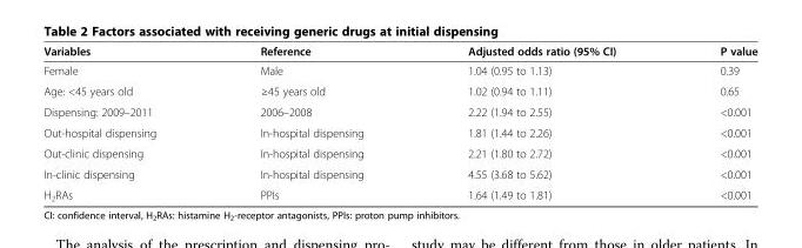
<table><thead><tr><td>Variables</td><td>Reference</td><td>Adjusted odds ratio (95% CI)</td><td>P value</td></tr></thead><tbody><tr><td>Female</td><td>Male</td><td>1.04 (0.95 to 1.13)</td><td>0.39</td></tr><tr><td>Age: &lt;45 years old</td><td>≥45 years old</td><td>1.02 (0.94 to 1.11)</td><td>0.65</td></tr><tr><td>Dispensing: 2009–2011</td><td>2006–2008</td><td>2.22 (1.94 to 2.55)</td><td>&lt;0.001</td></tr><tr><td>Out-hospital dispensing</td><td>In-hospital dispensing</td><td>1.81 (1.44 to 2.26)</td><td>&lt;0.001</td></tr><tr><td>Out-clinic dispensing</td><td>In-hospital dispensing</td><td>2.21 (1.80 to 2.72)</td><td>&lt;0.001</td></tr><tr><td>In-clinic dispensing</td><td>In-hospital dispensing</td><td>4.55 (3.68 to 5.62)</td><td>&lt;0.001</td></tr><tr><td>H<sub>2</sub>RAs</td><td>PPIs</td><td>1.64 (1.49 to 1.81)</td><td>&lt;0.001</td></tr></tbody></table>